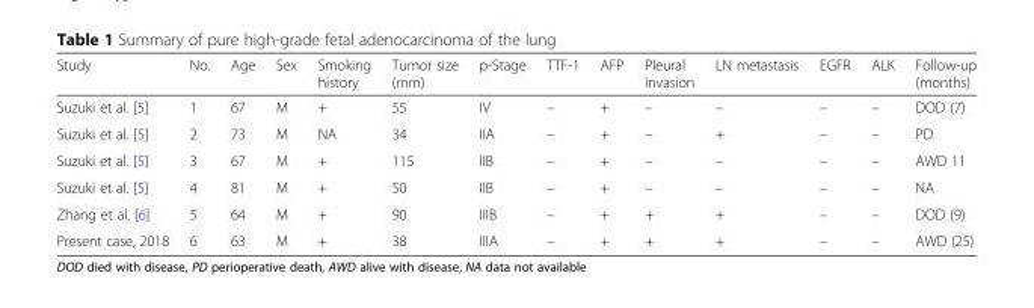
<table><thead><tr><td>Study</td><td>No.</td><td>Age</td><td>Sex</td><td>Smoking history</td><td>Tumor size (mm)</td><td>p-Stage</td><td>TTF-1</td><td>AFP</td><td>Pleural invasion</td><td>LN metastasis</td><td>EGFR</td><td>ALK</td><td>Follow-up (months)</td></tr></thead><tbody><tr><td>Suzuki et al. [5]</td><td>1</td><td>67</td><td>M</td><td>+</td><td>55</td><td>IV</td><td>–</td><td>+</td><td>–</td><td>–</td><td>–</td><td>–</td><td>DOD (7)</td></tr><tr><td>Suzuki et al. [5]</td><td>2</td><td>73</td><td>M</td><td>NA</td><td>34</td><td>IIA</td><td>–</td><td>+</td><td>–</td><td>+</td><td>–</td><td>–</td><td>PD</td></tr><tr><td>Suzuki et al. [5]</td><td>3</td><td>67</td><td>M</td><td>+</td><td>115</td><td>IIB</td><td>–</td><td>+</td><td>–</td><td>–</td><td>–</td><td>–</td><td>AWD 11</td></tr><tr><td>Suzuki et al. [5]</td><td>4</td><td>81</td><td>M</td><td>+</td><td>50</td><td>IIB</td><td>–</td><td>+</td><td>–</td><td>–</td><td>–</td><td>–</td><td>NA</td></tr><tr><td>Zhang et al. [6]</td><td>5</td><td>64</td><td>M</td><td>+</td><td>90</td><td>IIIB</td><td>–</td><td>+</td><td>+</td><td>+</td><td>–</td><td>–</td><td>DOD (9)</td></tr><tr><td>Present case, 2018</td><td>6</td><td>63</td><td>M</td><td>+</td><td>38</td><td>IIIA</td><td>–</td><td>+</td><td>+</td><td>+</td><td>–</td><td>–</td><td>AWD (25)</td></tr></tbody></table>